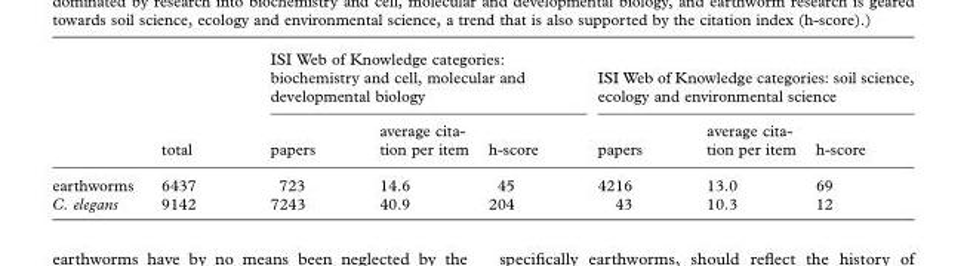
<table><thead><tr><td rowspan="2"></td><td rowspan="2">total</td><td colspan="3">ISI Web of Knowledge categories: biochemistry and cell, molecular and developmental biology</td><td colspan="3">ISI Web of Knowledge categories: soil science, ecology and environmental science</td></tr><tr><td>papers</td><td>average cita- tion per item</td><td>h-score</td><td>papers</td><td>average cita- tion per item</td><td>h-score</td></tr></thead><tbody><tr><td>earthworms</td><td>6437</td><td>723</td><td>14.6</td><td>45</td><td>4216</td><td>13.0</td><td>69</td></tr><tr><td>C. elegans</td><td>9142</td><td>7243</td><td>40.9</td><td>204</td><td>43</td><td>10.3</td><td>12</td></tr></tbody></table>